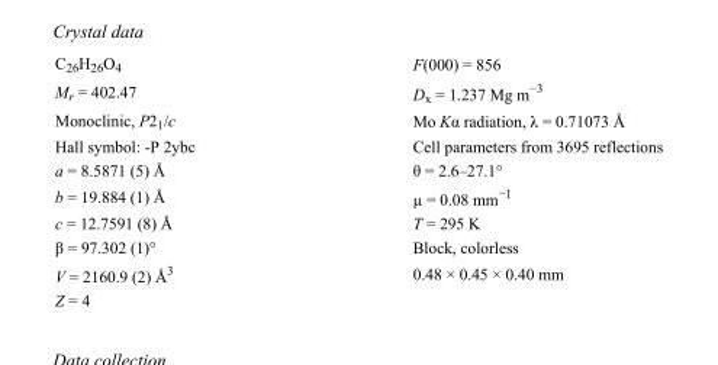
<table><tbody><tr><td>C<sub>26</sub>H<sub>26</sub>O<sub>4</sub></td><td>F(000) = 856</td></tr><tr><td>M<sub>r</sub> = 402.47</td><td>D<sub>x</sub> = 1.237 Mg m<sup>−3</sup></td></tr><tr><td>Monoclinic, P2<sub>1</sub>/c</td><td>Mo Kα radiation, λ = 0.71073 Å</td></tr><tr><td>Hall symbol: -P 2ybc</td><td>Cell parameters from 3695 reflections</td></tr><tr><td>a = 8.5871 (5) Å</td><td>θ = 2.6–27.1°</td></tr><tr><td>b = 19.884 (1) Å</td><td>µ = 0.08 mm<sup>−1</sup></td></tr><tr><td>c = 12.7591 (8) Å</td><td>T = 295 K</td></tr><tr><td>β = 97.302 (1)°</td><td>Block, colorless</td></tr><tr><td>V = 2160.9 (2) Å<sup>3</sup></td><td>0.48 × 0.45 × 0.40 mm</td></tr><tr><td>Z = 4</td><td></td></tr></tbody></table>